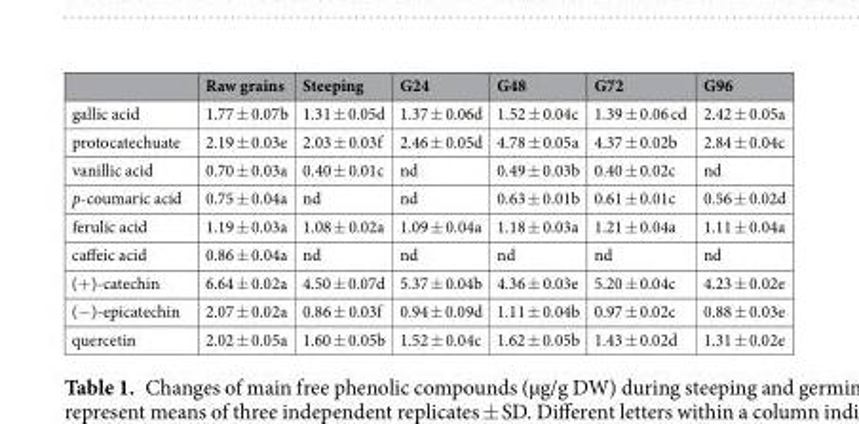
<table><thead><tr><td></td><td>Raw grains</td><td>Steeping</td><td>G24</td><td>G48</td><td>G72</td><td>G96</td></tr></thead><tbody><tr><td>gallic acid</td><td>1.77 ± 0.07b</td><td>1.31 ± 0.05d</td><td>1.37 ± 0.06d</td><td>1.52 ± 0.04c</td><td>1.39 ± 0.06 cd</td><td>2.42 ± 0.05a</td></tr><tr><td>protocatechuate</td><td>2.19 ± 0.03e</td><td>2.03 ± 0.03f</td><td>2.46 ± 0.05d</td><td>4.78 ± 0.05a</td><td>4.37 ± 0.02b</td><td>2.84 ± 0.04c</td></tr><tr><td>vanillic acid</td><td>0.70 ± 0.03a</td><td>0.40 ± 0.01c</td><td>nd</td><td>0.49 ± 0.03b</td><td>0.40 ± 0.02c</td><td>nd</td></tr><tr><td>p-coumaric acid</td><td>0.75 ± 0.04a</td><td>nd</td><td>nd</td><td>0.63 ± 0.01b</td><td>0.61 ± 0.01c</td><td>0.56 ± 0.02d</td></tr><tr><td>ferulic acid</td><td>1.19 ± 0.03a</td><td>1.08 ± 0.02a</td><td>1.09 ± 0.04a</td><td>1.18 ± 0.03a</td><td>1.21 ± 0.04a</td><td>1.11 ± 0.04a</td></tr><tr><td>caffeic acid</td><td>0.86 ± 0.04a</td><td>nd</td><td>nd</td><td>nd</td><td>nd</td><td>nd</td></tr><tr><td>(+)-catechin</td><td>6.64 ± 0.02a</td><td>4.50 ± 0.07d</td><td>5.37 ± 0.04b</td><td>4.36 ± 0.03e</td><td>5.20 ± 0.04c</td><td>4.23 ± 0.02e</td></tr><tr><td>(−)-epicatechin</td><td>2.07 ± 0.02a</td><td>0.86 ± 0.03f</td><td>0.94 ± 0.09d</td><td>1.11 ± 0.04b</td><td>0.97 ± 0.02c</td><td>0.88 ± 0.03e</td></tr><tr><td>quercetin</td><td>2.02 ± 0.05a</td><td>1.60 ± 0.05b</td><td>1.52 ± 0.04c</td><td>1.62 ± 0.05b</td><td>1.43 ± 0.02d</td><td>1.31 ± 0.02e</td></tr></tbody></table>